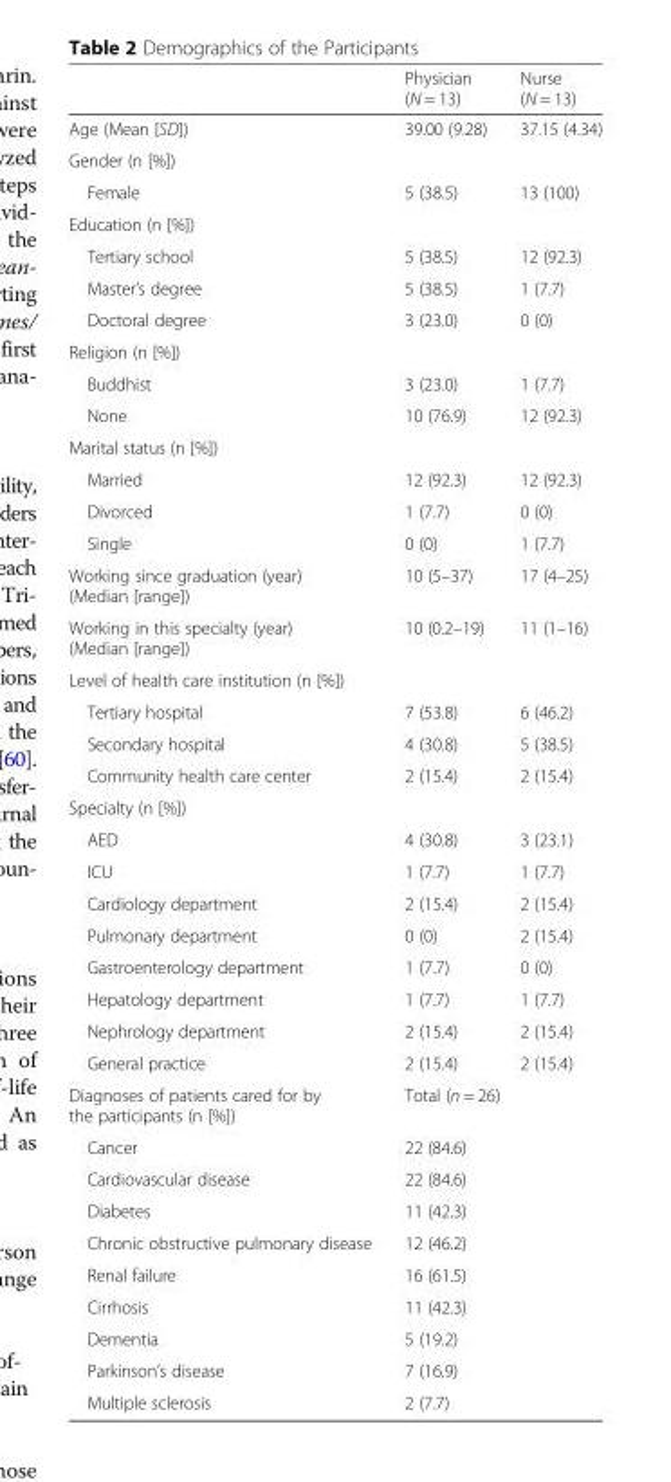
<table><thead><tr><td></td><td>Physician (N = 13)</td><td>Nurse (N = 13)</td></tr></thead><tbody><tr><td>Age (Mean [SD])</td><td>39.00 (9.28)</td><td>37.15 (4.34)</td></tr><tr><td colspan="3">Gender (n [%])</td></tr><tr><td>Female</td><td>5 (38.5)</td><td>13 (100)</td></tr><tr><td colspan="3">Education (n [%])</td></tr><tr><td>Tertiary school</td><td>5 (38.5)</td><td>12 (92.3)</td></tr><tr><td>Master’s degree</td><td>5 (38.5)</td><td>1 (7.7)</td></tr><tr><td>Doctoral degree</td><td>3 (23.0)</td><td>0 (0)</td></tr><tr><td colspan="3">Religion (n [%])</td></tr><tr><td>Buddhist</td><td>3 (23.0)</td><td>1 (7.7)</td></tr><tr><td>None</td><td>10 (76.9)</td><td>12 (92.3)</td></tr><tr><td colspan="3">Marital status (n [%])</td></tr><tr><td>Married</td><td>12 (92.3)</td><td>12 (92.3)</td></tr><tr><td>Divorced</td><td>1 (7.7)</td><td>0 (0)</td></tr><tr><td>Single</td><td>0 (0)</td><td>1 (7.7)</td></tr><tr><td>Working since graduation (year) (Median [range])</td><td>10 (5–37)</td><td>17 (4–25)</td></tr><tr><td>Working in this specialty (year) (Median [range])</td><td>10 (0.2–19)</td><td>11 (1–16)</td></tr><tr><td colspan="3">Level of health care institution (n [%])</td></tr><tr><td>Tertiary hospital</td><td>7 (53.8)</td><td>6 (46.2)</td></tr><tr><td>Secondary hospital</td><td>4 (30.8)</td><td>5 (38.5)</td></tr><tr><td>Community health care center</td><td>2 (15.4)</td><td>2 (15.4)</td></tr><tr><td colspan="3">Specialty (n [%])</td></tr><tr><td>AED</td><td>4 (30.8)</td><td>3 (23.1)</td></tr><tr><td>ICU</td><td>1 (7.7)</td><td>1 (7.7)</td></tr><tr><td>Cardiology department</td><td>2 (15.4)</td><td>2 (15.4)</td></tr><tr><td>Pulmonary department</td><td>0 (0)</td><td>2 (15.4)</td></tr><tr><td>Gastroenterology department</td><td>1 (7.7)</td><td>0 (0)</td></tr><tr><td>Hepatology department</td><td>1 (7.7)</td><td>1 (7.7)</td></tr><tr><td>Nephrology department</td><td>2 (15.4)</td><td>2 (15.4)</td></tr><tr><td>General practice</td><td>2 (15.4)</td><td>2 (15.4)</td></tr><tr><td>Diagnoses of patients cared for by the participants (n [%])</td><td colspan="2">Total (n = 26)</td></tr><tr><td>Cancer</td><td colspan="2">22 (84.6)</td></tr><tr><td>Cardiovascular disease</td><td colspan="2">22 (84.6)</td></tr><tr><td>Diabetes</td><td colspan="2">11 (42.3)</td></tr><tr><td>Chronic obstructive pulmonary disease</td><td colspan="2">12 (46.2)</td></tr><tr><td>Renal failure</td><td colspan="2">16 (61.5)</td></tr><tr><td>Cirrhosis</td><td colspan="2">11 (42.3)</td></tr><tr><td>Dementia</td><td colspan="2">5 (19.2)</td></tr><tr><td>Parkinson’s disease</td><td colspan="2">7 (16.9)</td></tr><tr><td>Multiple sclerosis</td><td colspan="2">2 (7.7)</td></tr></tbody></table>